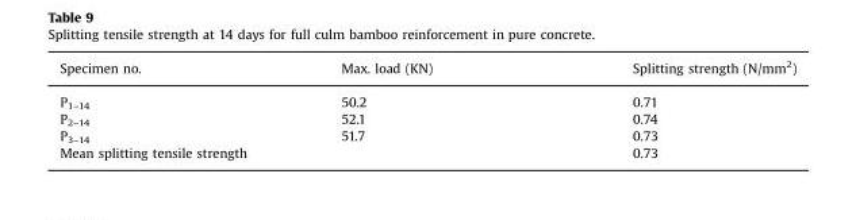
<table><thead><tr><td>Specimen no.</td><td>Max. load (KN)</td><td>Splitting strength (N/mm<sup>2</sup>)</td></tr></thead><tbody><tr><td>P<sub>1–14</sub></td><td>50.2</td><td>0.71</td></tr><tr><td>P<sub>2–14</sub></td><td>52.1</td><td>0.74</td></tr><tr><td>P<sub>3–14</sub></td><td>51.7</td><td>0.73</td></tr><tr><td colspan="2">Mean splitting tensile strength</td><td>0.73</td></tr></tbody></table>